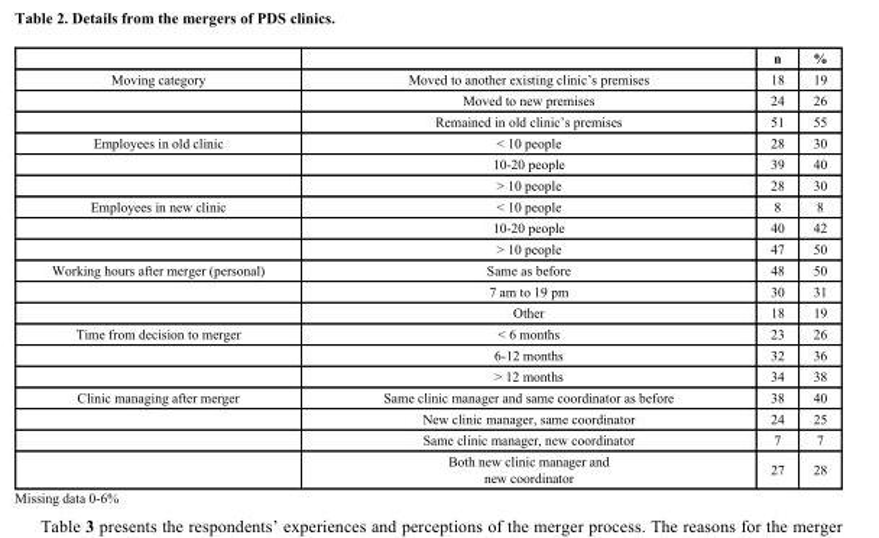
<table><thead><tr><td></td><td></td><td>n</td><td>%</td></tr></thead><tbody><tr><td rowspan="3">Moving category</td><td>Moved to another existing clinic’s premises</td><td>18</td><td>19</td></tr><tr><td>Moved to new premises</td><td>24</td><td>26</td></tr><tr><td>Remained in old clinic’s premises</td><td>51</td><td>55</td></tr><tr><td rowspan="3">Employees in old clinic</td><td>&lt; 10 people</td><td>28</td><td>30</td></tr><tr><td>10-20 people</td><td>39</td><td>40</td></tr><tr><td>&gt; 10 people</td><td>28</td><td>30</td></tr><tr><td rowspan="3">Employees in new clinic</td><td>&lt; 10 people</td><td>8</td><td>8</td></tr><tr><td>10-20 people</td><td>40</td><td>42</td></tr><tr><td>&gt; 10 people</td><td>47</td><td>50</td></tr><tr><td rowspan="3">Working hours after merger (personal)</td><td>Same as before</td><td>48</td><td>50</td></tr><tr><td>7 am to 19 pm</td><td>30</td><td>31</td></tr><tr><td>Other</td><td>18</td><td>19</td></tr><tr><td rowspan="3">Time from decision to merger</td><td>&lt; 6 months</td><td>23</td><td>26</td></tr><tr><td>6-12 months</td><td>32</td><td>36</td></tr><tr><td>&gt; 12 months</td><td>34</td><td>38</td></tr><tr><td rowspan="4">Clinic managing after merger</td><td>Same clinic manager and same coordinator as before</td><td>38</td><td>40</td></tr><tr><td>New clinic manager, same coordinator</td><td>24</td><td>25</td></tr><tr><td>Same clinic manager, new coordinator</td><td>7</td><td>7</td></tr><tr><td>Both new clinic manager and new coordinator</td><td>27</td><td>28</td></tr></tbody></table>